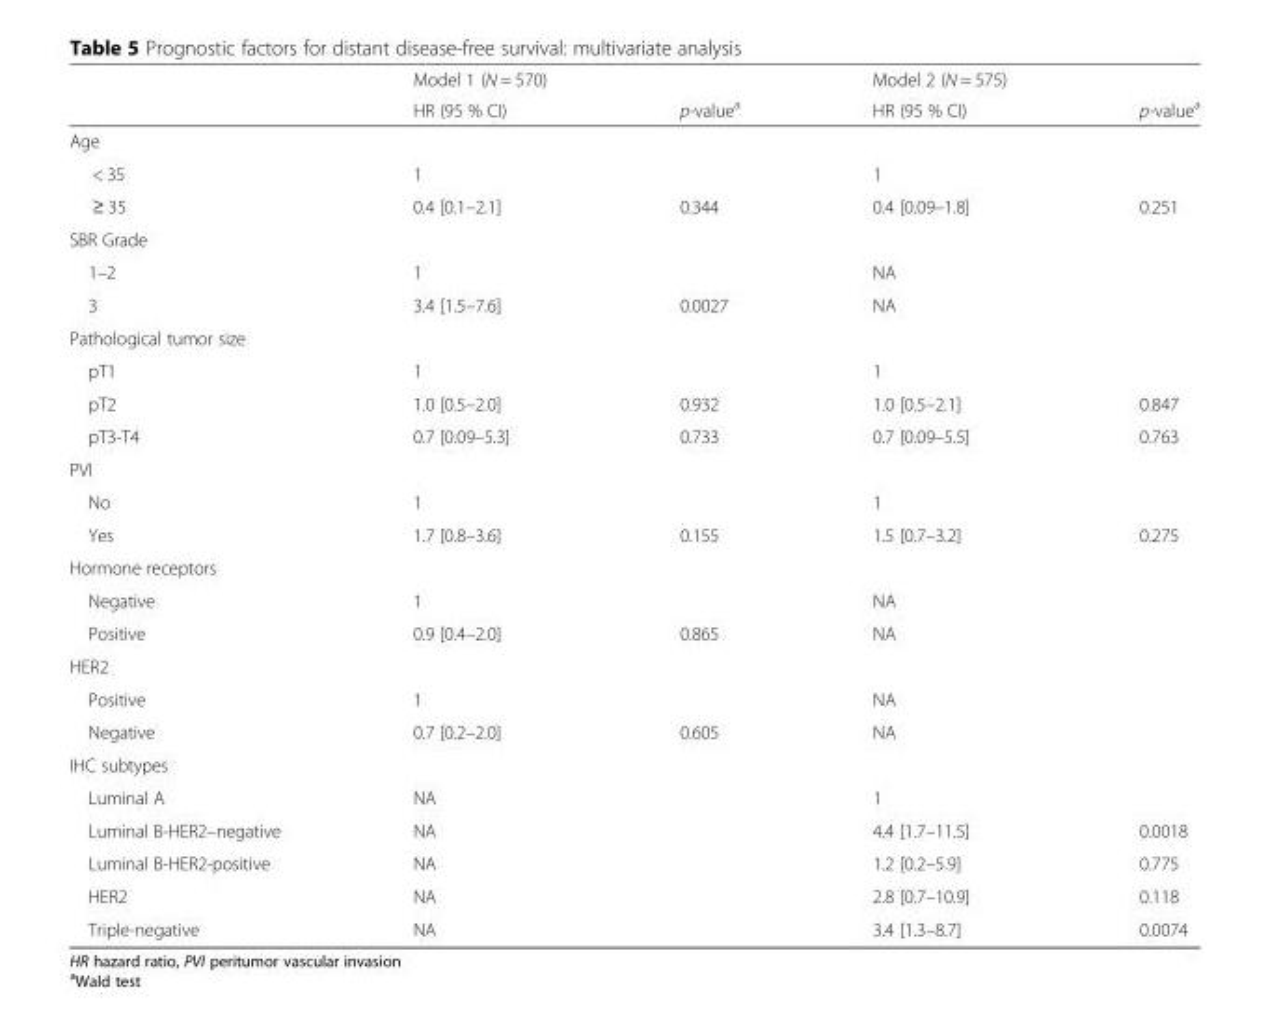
<table><thead><tr><td rowspan="2"></td><td rowspan="2">Model 1 (N = 570) HR (95 % CI)</td><td rowspan="2">p-value<sup>a</sup></td><td rowspan="2">Model 2 (N = 575) HR (95 % CI)</td><td rowspan="2">p-value<sup>a</sup></td></tr><tr></tr></thead><tbody><tr><td colspan="5">Age</td></tr><tr><td>&lt; 35</td><td>1</td><td></td><td>1</td><td></td></tr><tr><td>≥ 35</td><td>0.4 [0.1–2.1]</td><td>0.344</td><td>0.4 [0.09–1.8]</td><td>0.251</td></tr><tr><td colspan="5">SBR Grade</td></tr><tr><td>1–2</td><td>1</td><td></td><td>NA</td><td></td></tr><tr><td>3</td><td>3.4 [1.5–7.6]</td><td>0.0027</td><td>NA</td><td></td></tr><tr><td colspan="5">Pathological tumor size</td></tr><tr><td>pT1</td><td>1</td><td></td><td>1</td><td></td></tr><tr><td>pT2</td><td>1.0 [0.5–2.0]</td><td>0.932</td><td>1.0 [0.5–2.1]</td><td>0.847</td></tr><tr><td>pT3-T4</td><td>0.7 [0.09–5.3]</td><td>0.733</td><td>0.7 [0.09–5.5]</td><td>0.763</td></tr><tr><td colspan="5">PVI</td></tr><tr><td>No</td><td>1</td><td></td><td>1</td><td></td></tr><tr><td>Yes</td><td>1.7 [0.8–3.6]</td><td>0.155</td><td>1.5 [0.7–3.2]</td><td>0.275</td></tr><tr><td colspan="5">Hormone receptors</td></tr><tr><td>Negative</td><td>1</td><td></td><td>NA</td><td></td></tr><tr><td>Positive</td><td>0.9 [0.4–2.0]</td><td>0.865</td><td>NA</td><td></td></tr><tr><td colspan="5">HER2</td></tr><tr><td>Positive</td><td>1</td><td></td><td>NA</td><td></td></tr><tr><td>Negative</td><td>0.7 [0.2–2.0]</td><td>0.605</td><td>NA</td><td></td></tr><tr><td colspan="5">IHC subtypes</td></tr><tr><td>Luminal A</td><td>NA</td><td></td><td>1</td><td></td></tr><tr><td>Luminal B-HER2–negative</td><td>NA</td><td></td><td>4.4 [1.7–11.5]</td><td>0.0018</td></tr><tr><td>Luminal B-HER2-positive</td><td>NA</td><td></td><td>1.2 [0.2–5.9]</td><td>0.775</td></tr><tr><td>HER2</td><td>NA</td><td></td><td>2.8 [0.7–10.9]</td><td>0.118</td></tr><tr><td>Triple-negative</td><td>NA</td><td></td><td>3.4 [1.3–8.7]</td><td>0.0074</td></tr></tbody></table>